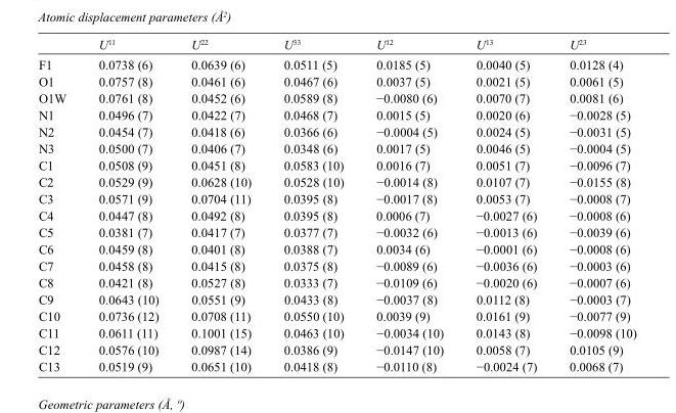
<table><thead><tr><td></td><td>U<sup>11</sup></td><td>U<sup>22</sup></td><td>U<sup>33</sup></td><td>U<sup>12</sup></td><td>U<sup>13</sup></td><td>U<sup>23</sup></td></tr></thead><tbody><tr><td>F1</td><td>0.0738 (6)</td><td>0.0639 (6)</td><td>0.0511 (5)</td><td>0.0185 (5)</td><td>0.0040 (5)</td><td>0.0128 (4)</td></tr><tr><td>O1</td><td>0.0757 (8)</td><td>0.0461 (6)</td><td>0.0467 (6)</td><td>0.0037 (5)</td><td>0.0021 (5)</td><td>0.0061 (5)</td></tr><tr><td>O1W</td><td>0.0761 (8)</td><td>0.0452 (6)</td><td>0.0589 (8)</td><td>−0.0080 (6)</td><td>0.0070 (7)</td><td>0.0081 (6)</td></tr><tr><td>N1</td><td>0.0496 (7)</td><td>0.0422 (7)</td><td>0.0468 (7)</td><td>0.0015 (5)</td><td>0.0020 (6)</td><td>−0.0028 (5)</td></tr><tr><td>N2</td><td>0.0454 (7)</td><td>0.0418 (6)</td><td>0.0366 (6)</td><td>−0.0004 (5)</td><td>0.0024 (5)</td><td>−0.0031 (5)</td></tr><tr><td>N3</td><td>0.0500 (7)</td><td>0.0406 (7)</td><td>0.0348 (6)</td><td>0.0017 (5)</td><td>0.0046 (5)</td><td>−0.0004 (5)</td></tr><tr><td>C1</td><td>0.0508 (9)</td><td>0.0451 (8)</td><td>0.0583 (10)</td><td>0.0016 (7)</td><td>0.0051 (7)</td><td>−0.0096 (7)</td></tr><tr><td>C2</td><td>0.0529 (9)</td><td>0.0628 (10)</td><td>0.0528 (10)</td><td>−0.0014 (8)</td><td>0.0107 (7)</td><td>−0.0155 (8)</td></tr><tr><td>C3</td><td>0.0571 (9)</td><td>0.0704 (11)</td><td>0.0395 (8)</td><td>−0.0017 (8)</td><td>0.0053 (7)</td><td>−0.0008 (7)</td></tr><tr><td>C4</td><td>0.0447 (8)</td><td>0.0492 (8)</td><td>0.0395 (8)</td><td>0.0006 (7)</td><td>−0.0027 (6)</td><td>−0.0008 (6)</td></tr><tr><td>C5</td><td>0.0381 (7)</td><td>0.0417 (7)</td><td>0.0377 (7)</td><td>−0.0032 (6)</td><td>−0.0013 (6)</td><td>−0.0039 (6)</td></tr><tr><td>C6</td><td>0.0459 (8)</td><td>0.0401 (8)</td><td>0.0388 (7)</td><td>0.0034 (6)</td><td>−0.0001 (6)</td><td>−0.0008 (6)</td></tr><tr><td>C7</td><td>0.0458 (8)</td><td>0.0415 (8)</td><td>0.0375 (8)</td><td>−0.0089 (6)</td><td>−0.0036 (6)</td><td>−0.0003 (6)</td></tr><tr><td>C8</td><td>0.0421 (8)</td><td>0.0527 (8)</td><td>0.0333 (7)</td><td>−0.0109 (6)</td><td>−0.0020 (6)</td><td>−0.0007 (6)</td></tr><tr><td>C9</td><td>0.0643 (10)</td><td>0.0551 (9)</td><td>0.0433 (8)</td><td>−0.0037 (8)</td><td>0.0112 (8)</td><td>−0.0003 (7)</td></tr><tr><td>C10</td><td>0.0736 (12)</td><td>0.0708 (11)</td><td>0.0550 (10)</td><td>0.0039 (9)</td><td>0.0161 (9)</td><td>−0.0077 (9)</td></tr><tr><td>C11</td><td>0.0611 (11)</td><td>0.1001 (15)</td><td>0.0463 (10)</td><td>−0.0034 (10)</td><td>0.0143 (8)</td><td>−0.0098 (10)</td></tr><tr><td>C12</td><td>0.0576 (10)</td><td>0.0987 (14)</td><td>0.0386 (9)</td><td>−0.0147 (10)</td><td>0.0058 (7)</td><td>0.0105 (9)</td></tr><tr><td>C13</td><td>0.0519 (9)</td><td>0.0651 (10)</td><td>0.0418 (8)</td><td>−0.0110 (8)</td><td>−0.0024 (7)</td><td>0.0068 (7)</td></tr></tbody></table>